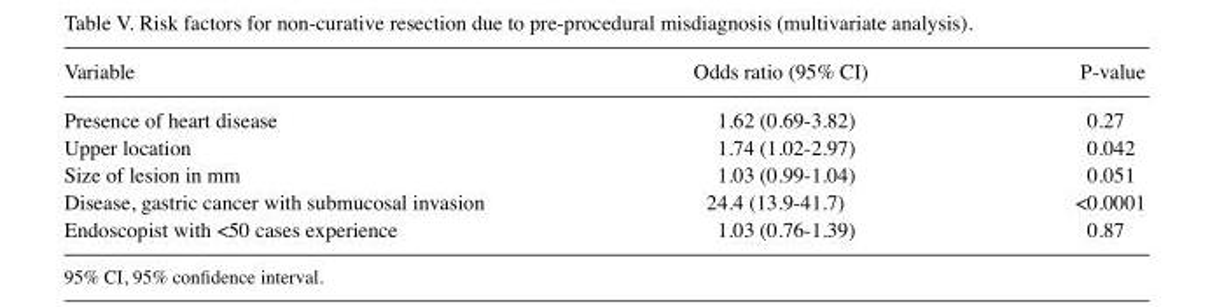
<table><thead><tr><td>Variable</td><td>Odds ratio (95% CI)</td><td>P-value</td></tr></thead><tbody><tr><td>Presence of heart disease</td><td>1.62 (0.69-3.82)</td><td>0.27</td></tr><tr><td>Upper location</td><td>1.74 (1.02-2.97)</td><td>0.042</td></tr><tr><td>Size of lesion in mm</td><td>1.03 (0.99-1.04)</td><td>0.051</td></tr><tr><td>Disease, gastric cancer with submucosal invasion</td><td>24.4 (13.9-41.7)</td><td>&lt;0.0001</td></tr><tr><td>Endoscopist with &lt;50 cases experience</td><td>1.03 (0.76-1.39)</td><td>0.87</td></tr></tbody></table>